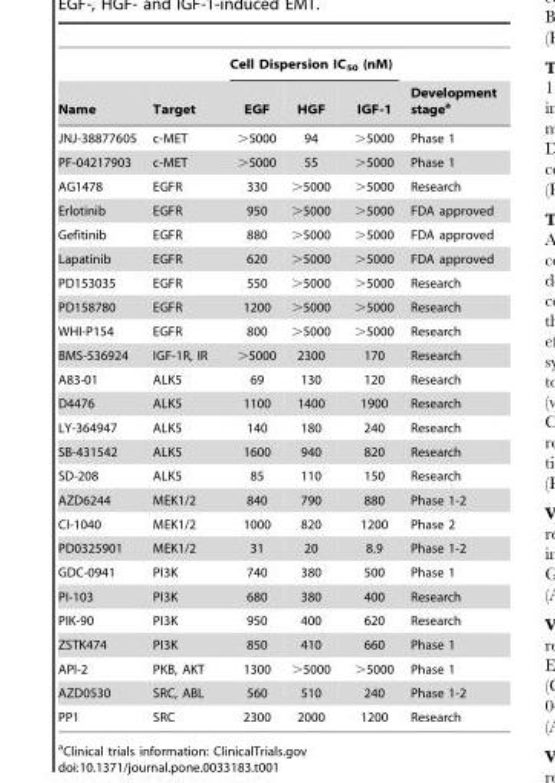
<table><thead><tr><td rowspan="2">Name</td><td rowspan="2">Target</td><td colspan="3">Cell Dispersion IC<sub>50</sub> (nM)</td><td rowspan="2">Development stage<sup>a</sup></td></tr><tr><td>EGF</td><td>HGF</td><td>IGF-1</td></tr></thead><tbody><tr><td>JNJ-38877605</td><td>c-MET</td><td>&gt;5000</td><td>94</td><td>&gt;5000</td><td>Phase 1</td></tr><tr><td>PF-04217903</td><td>c-MET</td><td>&gt;5000</td><td>55</td><td>&gt;5000</td><td>Phase 1</td></tr><tr><td>AG1478</td><td>EGFR</td><td>330</td><td>&gt;5000</td><td>&gt;5000</td><td>Research</td></tr><tr><td>Erlotinib</td><td>EGFR</td><td>950</td><td>&gt;5000</td><td>&gt;5000</td><td>FDA approved</td></tr><tr><td>Gefitinib</td><td>EGFR</td><td>880</td><td>&gt;5000</td><td>&gt;5000</td><td>FDA approved</td></tr><tr><td>Lapatinib</td><td>EGFR</td><td>620</td><td>&gt;5000</td><td>&gt;5000</td><td>FDA approved</td></tr><tr><td>PD153035</td><td>EGFR</td><td>550</td><td>&gt;5000</td><td>&gt;5000</td><td>Research</td></tr><tr><td>PD158780</td><td>EGFR</td><td>1200</td><td>&gt;5000</td><td>&gt;5000</td><td>Research</td></tr><tr><td>WHI-P154</td><td>EGFR</td><td>800</td><td>&gt;5000</td><td>&gt;5000</td><td>Research</td></tr><tr><td>BMS-536924</td><td>IGF-1R, IR</td><td>&gt;5000</td><td>2300</td><td>170</td><td>Research</td></tr><tr><td>A83-01</td><td>ALK5</td><td>69</td><td>130</td><td>120</td><td>Research</td></tr><tr><td>D4476</td><td>ALK5</td><td>1100</td><td>1400</td><td>1900</td><td>Research</td></tr><tr><td>LY-364947</td><td>ALK5</td><td>140</td><td>180</td><td>240</td><td>Research</td></tr><tr><td>SB-431542</td><td>ALK5</td><td>1600</td><td>940</td><td>820</td><td>Research</td></tr><tr><td>SD-208</td><td>ALK5</td><td>85</td><td>110</td><td>150</td><td>Research</td></tr><tr><td>AZD6244</td><td>MEK1/2</td><td>840</td><td>790</td><td>880</td><td>Phase 1-2</td></tr><tr><td>CI-1040</td><td>MEK1/2</td><td>1000</td><td>820</td><td>1200</td><td>Phase 2</td></tr><tr><td>PD0325901</td><td>MEK1/2</td><td>31</td><td>20</td><td>8.9</td><td>Phase 1-2</td></tr><tr><td>GDC-0941</td><td>PI3K</td><td>740</td><td>380</td><td>500</td><td>Phase 1</td></tr><tr><td>PI-103</td><td>PI3K</td><td>680</td><td>380</td><td>400</td><td>Research</td></tr><tr><td>PIK-90</td><td>PI3K</td><td>950</td><td>400</td><td>620</td><td>Research</td></tr><tr><td>ZSTK474</td><td>PI3K</td><td>850</td><td>410</td><td>660</td><td>Phase 1</td></tr><tr><td>API-2</td><td>PKB, AKT</td><td>1300</td><td>&gt;5000</td><td>&gt;5000</td><td>Phase 1</td></tr><tr><td>AZD0530</td><td>SRC, ABL</td><td>560</td><td>510</td><td>240</td><td>Phase 1-2</td></tr><tr><td>PP1</td><td>SRC</td><td>2300</td><td>2000</td><td>1200</td><td>Research</td></tr></tbody></table>